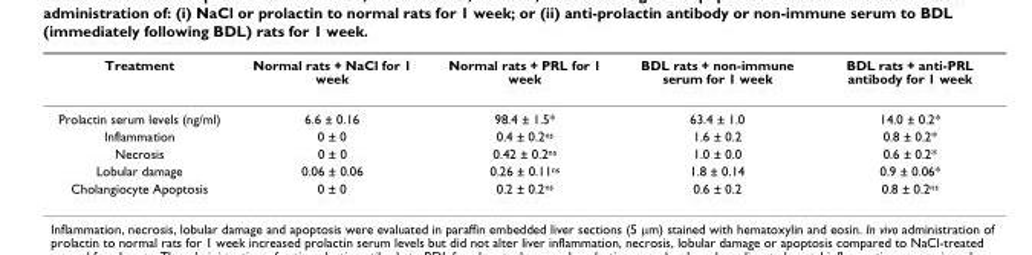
<table><thead><tr><td>Treatment</td><td>Normal rats + NaCl for 1 week</td><td>Normal rats + PRL for 1 week</td><td>BDL rats + non-immune serum for 1 week</td><td>BDL rats + anti-PRL antibody for 1 week</td></tr></thead><tbody><tr><td>Prolactin serum levels (ng/ml)</td><td>6.6 ± 0.16</td><td>98.4 ± 1.5*</td><td>63.4 ± 1.0</td><td>14.0 ± 0.2*</td></tr><tr><td>Inflammation</td><td>0 ± 0</td><td>0.4 ± 0.2<sup>ns</sup></td><td>1.6 ± 0.2</td><td>0.8 ± 0.2*</td></tr><tr><td>Necrosis</td><td>0 ± 0</td><td>0.42 ± 0.2<sup>ns</sup></td><td>1.0 ± 0.0</td><td>0.6 ± 0.2*</td></tr><tr><td>Lobular damage</td><td>0.06 ± 0.06</td><td>0.26 ± 0.11<sup>ns</sup></td><td>1.8 ± 0.14</td><td>0.9 ± 0.06*</td></tr><tr><td>Cholangiocyte Apoptosis</td><td>0 ± 0</td><td>0.2 ± 0.2<sup>ns</sup></td><td>0.6 ± 0.2</td><td>0.8 ± 0.2<sup>ns</sup></td></tr></tbody></table>